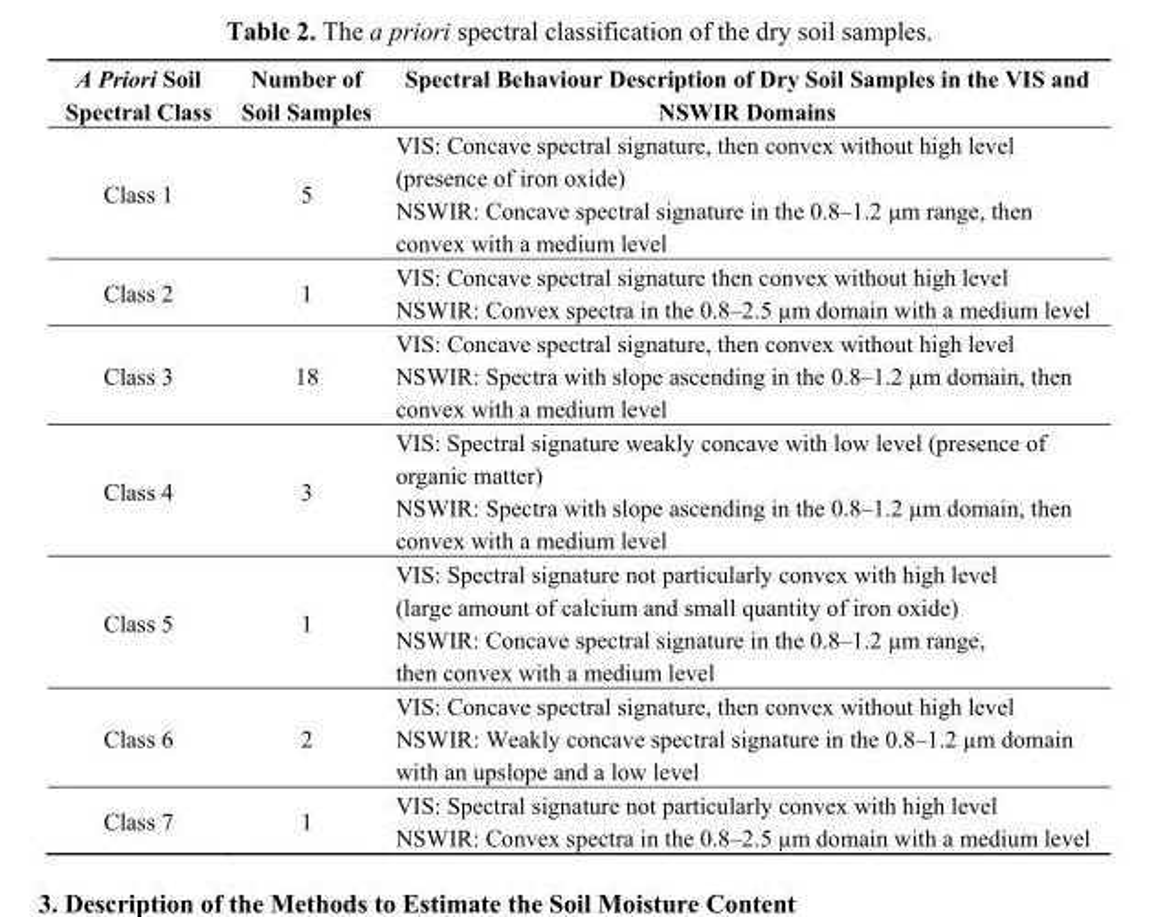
<table><thead><tr><td>A Priori Soil Spectral Class</td><td>Number of Soil Samples</td><td>Spectral Behaviour Description of Dry Soil Samples in the VIS and NSWIR Domains</td></tr></thead><tbody><tr><td>Class 1</td><td>5</td><td>VIS: Concave spectral signature, then convex without high level (presence of iron oxide) NSWIR: Concave spectral signature in the 0.8–1.2 µm range, then convex with a medium level</td></tr><tr><td>Class 2</td><td>1</td><td>VIS: Concave spectral signature then convex without high level NSWIR: Convex spectra in the 0.8–2.5 µm domain with a medium level</td></tr><tr><td>Class 3</td><td>18</td><td>VIS: Concave spectral signature, then convex without high level NSWIR: Spectra with slope ascending in the 0.8–1.2 µm domain, then convex with a medium level</td></tr><tr><td>Class 4</td><td>3</td><td>VIS: Spectral signature weakly concave with low level (presence of organic matter) NSWIR: Spectra with slope ascending in the 0.8–1.2 µm domain, then convex with a medium level</td></tr><tr><td>Class 5</td><td>1</td><td>VIS: Spectral signature not particularly convex with high level (large amount of calcium and small quantity of iron oxide) NSWIR: Concave spectral signature in the 0.8–1.2 µm range, then convex with a medium level</td></tr><tr><td>Class 6</td><td>2</td><td>VIS: Concave spectral signature, then convex without high level NSWIR: Weakly concave spectral signature in the 0.8–1.2 µm domain with an upslope and a low level</td></tr><tr><td>Class 7</td><td>1</td><td>VIS: Spectral signature not particularly convex with high level NSWIR: Convex spectra in the 0.8–2.5 µm domain with a medium level</td></tr></tbody></table>